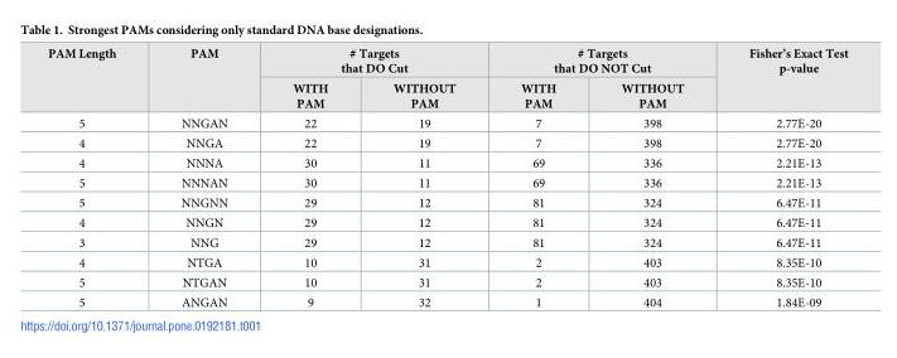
<table><thead><tr><td rowspan="2">PAM Length</td><td rowspan="2">PAM</td><td colspan="2"># Targets that DO Cut</td><td colspan="2"># Targets that DO NOT Cut</td><td rowspan="2">Fisher’s Exact Test p-value</td></tr><tr><td>WITH PAM</td><td>WITHOUT PAM</td><td>WITH PAM</td><td>WITHOUT PAM</td></tr></thead><tbody><tr><td>5</td><td>NNGAN</td><td>22</td><td>19</td><td>7</td><td>398</td><td>2.77E-20</td></tr><tr><td>4</td><td>NNGA</td><td>22</td><td>19</td><td>7</td><td>398</td><td>2.77E-20</td></tr><tr><td>4</td><td>NNNA</td><td>30</td><td>11</td><td>69</td><td>336</td><td>2.21E-13</td></tr><tr><td>5</td><td>NNNAN</td><td>30</td><td>11</td><td>69</td><td>336</td><td>2.21E-13</td></tr><tr><td>5</td><td>NNGNN</td><td>29</td><td>12</td><td>81</td><td>324</td><td>6.47E-11</td></tr><tr><td>4</td><td>NNGN</td><td>29</td><td>12</td><td>81</td><td>324</td><td>6.47E-11</td></tr><tr><td>3</td><td>NNG</td><td>29</td><td>12</td><td>81</td><td>324</td><td>6.47E-11</td></tr><tr><td>4</td><td>NTGA</td><td>10</td><td>31</td><td>2</td><td>403</td><td>8.35E-10</td></tr><tr><td>5</td><td>NTGAN</td><td>10</td><td>31</td><td>2</td><td>403</td><td>8.35E-10</td></tr><tr><td>5</td><td>ANGAN</td><td>9</td><td>32</td><td>1</td><td>404</td><td>1.84E-09</td></tr></tbody></table>